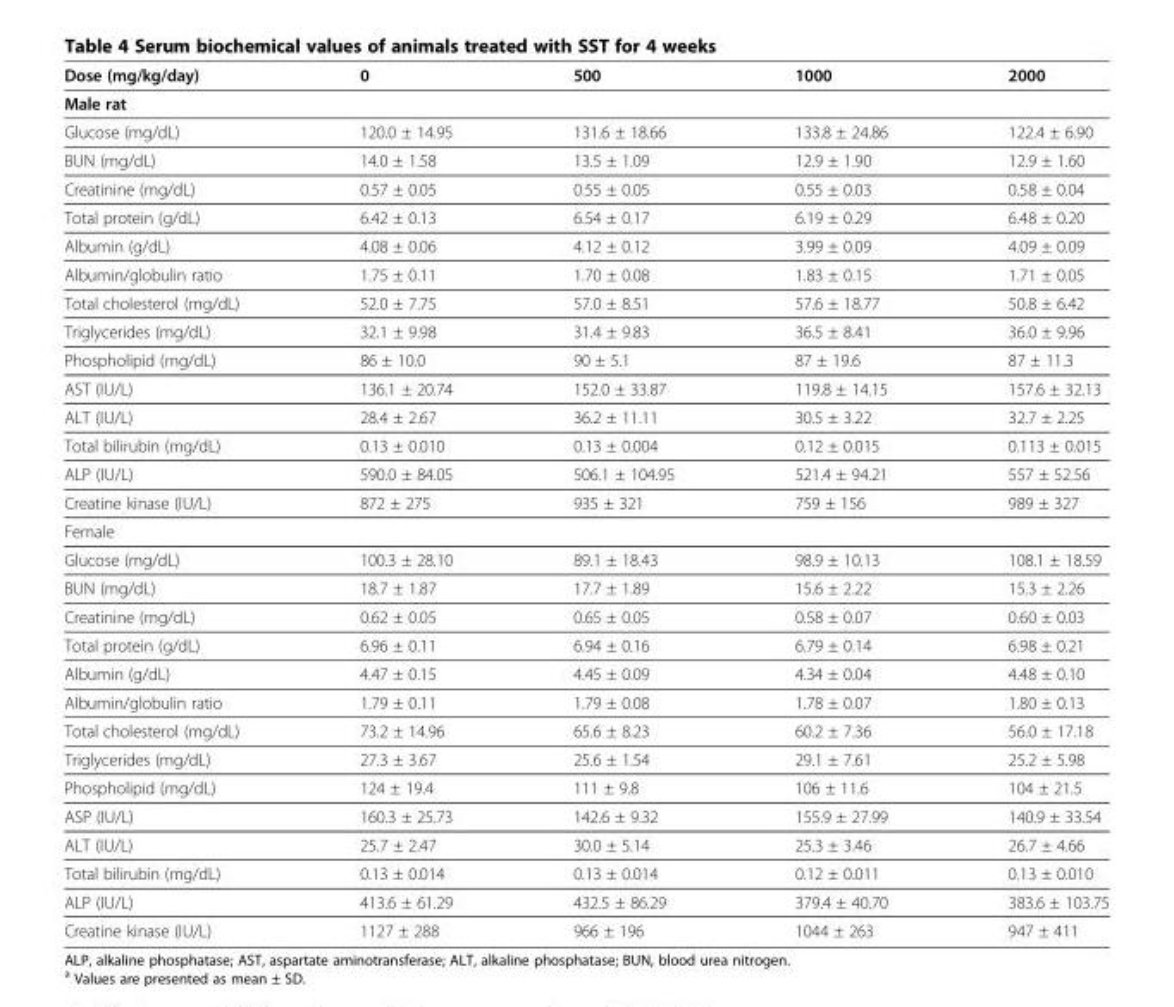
<table><thead><tr><td>Dose (mg/kg/day)</td><td>0</td><td>500</td><td>1000</td><td>2000</td></tr></thead><tbody><tr><td colspan="5">Male rat</td></tr><tr><td>Glucose (mg/dL)</td><td>120.0 ± 14.95</td><td>131.6 ± 18.66</td><td>133.8 ± 24.86</td><td>122.4 ± 6.90</td></tr><tr><td>BUN (mg/dL)</td><td>14.0 ± 1.58</td><td>13.5 ± 1.09</td><td>12.9 ± 1.90</td><td>12.9 ± 1.60</td></tr><tr><td>Creatinine (mg/dL)</td><td>0.57 ± 0.05</td><td>0.55 ± 0.05</td><td>0.55 ± 0.03</td><td>0.58 ± 0.04</td></tr><tr><td>Total protein (g/dL)</td><td>6.42 ± 0.13</td><td>6.54 ± 0.17</td><td>6.19 ± 0.29</td><td>6.48 ± 0.20</td></tr><tr><td>Albumin (g/dL)</td><td>4.08 ± 0.06</td><td>4.12 ± 0.12</td><td>3.99 ± 0.09</td><td>4.09 ± 0.09</td></tr><tr><td>Albumin/globulin ratio</td><td>1.75 ± 0.11</td><td>1.70 ± 0.08</td><td>1.83 ± 0.15</td><td>1.71 ± 0.05</td></tr><tr><td>Total cholesterol (mg/dL)</td><td>52.0 ± 7.75</td><td>57.0 ± 8.51</td><td>57.6 ± 18.77</td><td>50.8 ± 6.42</td></tr><tr><td>Triglycerides (mg/dL)</td><td>32.1 ± 9.98</td><td>31.4 ± 9.83</td><td>36.5 ± 8.41</td><td>36.0 ± 9.96</td></tr><tr><td>Phospholipid (mg/dL)</td><td>86 ± 10.0</td><td>90 ± 5.1</td><td>87 ± 19.6</td><td>87 ± 11.3</td></tr><tr><td>AST (IU/L)</td><td>136.1 ± 20.74</td><td>152.0 ± 33.87</td><td>119.8 ± 14.15</td><td>157.6 ± 32.13</td></tr><tr><td>ALT (IU/L)</td><td>28.4 ± 2.67</td><td>36.2 ± 11.11</td><td>30.5 ± 3.22</td><td>32.7 ± 2.25</td></tr><tr><td>Total bilirubin (mg/dL)</td><td>0.13 ± 0.010</td><td>0.13 ± 0.004</td><td>0.12 ± 0.015</td><td>0.113 ± 0.015</td></tr><tr><td>ALP (IU/L)</td><td>590.0 ± 84.05</td><td>506.1 ± 104.95</td><td>521.4 ± 94.21</td><td>557 ± 52.56</td></tr><tr><td>Creatine kinase (IU/L)</td><td>872 ± 275</td><td>935 ± 321</td><td>759 ± 156</td><td>989 ± 327</td></tr><tr><td colspan="5">Female</td></tr><tr><td>Glucose (mg/dL)</td><td>100.3 ± 28.10</td><td>89.1 ± 18.43</td><td>98.9 ± 10.13</td><td>108.1 ± 18.59</td></tr><tr><td>BUN (mg/dL)</td><td>18.7 ± 1.87</td><td>17.7 ± 1.89</td><td>15.6 ± 2.22</td><td>15.3 ± 2.26</td></tr><tr><td>Creatinine (mg/dL)</td><td>0.62 ± 0.05</td><td>0.65 ± 0.05</td><td>0.58 ± 0.07</td><td>0.60 ± 0.03</td></tr><tr><td>Total protein (g/dL)</td><td>6.96 ± 0.11</td><td>6.94 ± 0.16</td><td>6.79 ± 0.14</td><td>6.98 ± 0.21</td></tr><tr><td>Albumin (g/dL)</td><td>4.47 ± 0.15</td><td>4.45 ± 0.09</td><td>4.34 ± 0.04</td><td>4.48 ± 0.10</td></tr><tr><td>Albumin/globulin ratio</td><td>1.79 ± 0.11</td><td>1.79 ± 0.08</td><td>1.78 ± 0.07</td><td>1.80 ± 0.13</td></tr><tr><td>Total cholesterol (mg/dL)</td><td>73.2 ± 14.96</td><td>65.6 ± 8.23</td><td>60.2 ± 7.36</td><td>56.0 ± 17.18</td></tr><tr><td>Triglycerides (mg/dL)</td><td>27.3 ± 3.67</td><td>25.6 ± 1.54</td><td>29.1 ± 7.61</td><td>25.2 ± 5.98</td></tr><tr><td>Phospholipid (mg/dL)</td><td>124 ± 19.4</td><td>111 ± 9.8</td><td>106 ± 11.6</td><td>104 ± 21.5</td></tr><tr><td>ASP (IU/L)</td><td>160.3 ± 25.73</td><td>142.6 ± 9.32</td><td>155.9 ± 27.99</td><td>140.9 ± 33.54</td></tr><tr><td>ALT (IU/L)</td><td>25.7 ± 2.47</td><td>30.0 ± 5.14</td><td>25.3 ± 3.46</td><td>26.7 ± 4.66</td></tr><tr><td>Total bilirubin (mg/dL)</td><td>0.13 ± 0.014</td><td>0.13 ± 0.014</td><td>0.12 ± 0.011</td><td>0.13 ± 0.010</td></tr><tr><td>ALP (IU/L)</td><td>413.6 ± 61.29</td><td>432.5 ± 86.29</td><td>379.4 ± 40.70</td><td>383.6 ± 103.75</td></tr><tr><td>Creatine kinase (IU/L)</td><td>1127 ± 288</td><td>966 ± 196</td><td>1044 ± 263</td><td>947 ± 411</td></tr></tbody></table>